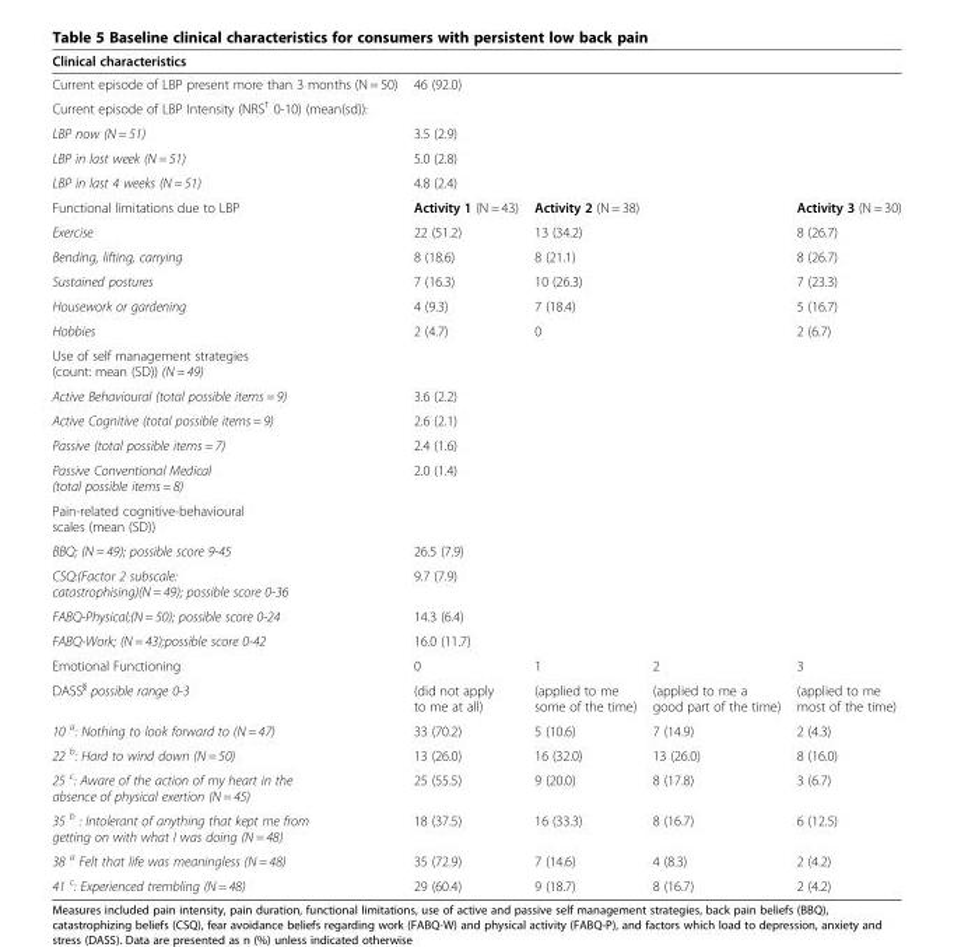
<table><thead><tr><td>Clinical characteristics</td><td></td><td></td><td></td><td></td></tr></thead><tbody><tr><td>Current episode of LBP present more than 3 months (N = 50)</td><td colspan="4">46 (92.0)</td></tr><tr><td colspan="5">Current episode of LBP Intensity (NRS<sup>†</sup> 0-10) (mean(sd)):</td></tr><tr><td>LBP now (N = 51)</td><td colspan="4">3.5 (2.9)</td></tr><tr><td>LBP in last week (N = 51)</td><td colspan="4">5.0 (2.8)</td></tr><tr><td>LBP in last 4 weeks (N = 51)</td><td colspan="4">4.8 (2.4)</td></tr><tr><td>Functional limitations due to LBP</td><td>Activity 1 (N = 43)</td><td colspan="2">Activity 2 (N = 38)</td><td>Activity 3 (N = 30)</td></tr><tr><td>Exercise</td><td>22 (51.2)</td><td colspan="2">13 (34.2)</td><td>8 (26.7)</td></tr><tr><td>Bending, lifting, carrying</td><td>8 (18.6)</td><td colspan="2">8 (21.1)</td><td>8 (26.7)</td></tr><tr><td>Sustained postures</td><td>7 (16.3)</td><td colspan="2">10 (26.3)</td><td>7 (23.3)</td></tr><tr><td>Housework or gardening</td><td>4 (9.3)</td><td colspan="2">7 (18.4)</td><td>5 (16.7)</td></tr><tr><td>Hobbies</td><td>2 (4.7)</td><td colspan="2">0</td><td>2 (6.7)</td></tr><tr><td colspan="5">Use of self management strategies (count: mean (SD)) (N = 49)</td></tr><tr><td>Active Behavioural (total possible items = 9)</td><td colspan="4">3.6 (2.2)</td></tr><tr><td>Active Cognitive (total possible items = 9)</td><td colspan="4">2.6 (2.1)</td></tr><tr><td>Passive (total possible items = 7)</td><td colspan="4">2.4 (1.6)</td></tr><tr><td>Passive Conventional Medical (total possible items = 8)</td><td colspan="4">2.0 (1.4)</td></tr><tr><td colspan="5">Pain-related cognitive-behavioural scales (mean (SD))</td></tr><tr><td>BBQ; (N = 49); possible score 9-45</td><td colspan="4">26.5 (7.9)</td></tr><tr><td>CSQ:(Factor 2 subscale: catastrophising)(N = 49); possible score 0-36</td><td colspan="4">9.7 (7.9)</td></tr><tr><td>FABQ-Physical;(N = 50); possible score 0-24</td><td colspan="4">14.3 (6.4)</td></tr><tr><td>FABQ-Work; (N = 43);possible score 0-42</td><td colspan="4">16.0 (11.7)</td></tr><tr><td>Emotional Functioning</td><td>0</td><td>1</td><td>2</td><td>3</td></tr><tr><td>DASS<sup>§</sup> possible range 0-3</td><td>(did not apply to me at all)</td><td>(applied to me some of the time)</td><td>(applied to me a good part of the time)</td><td>(applied to me most of the time)</td></tr><tr><td>10 <sup>a</sup>: Nothing to look forward to (N = 47)</td><td>33 (70.2)</td><td>5 (10.6)</td><td>7 (14.9)</td><td>2 (4.3)</td></tr><tr><td>22 <sup>b</sup>: Hard to wind down (N = 50)</td><td>13 (26.0)</td><td>16 (32.0)</td><td>13 (26.0)</td><td>8 (16.0)</td></tr><tr><td>25 <sup>c</sup>: Aware of the action of my heart in the absence of physical exertion (N = 45)</td><td>25 (55.5)</td><td>9 (20.0)</td><td>8 (17.8)</td><td>3 (6.7)</td></tr><tr><td>35 <sup>b</sup> : Intolerant of anything that kept me from getting on with what I was doing (N = 48)</td><td>18 (37.5)</td><td>16 (33.3)</td><td>8 (16.7)</td><td>6 (12.5)</td></tr><tr><td>38 <sup>a</sup> Felt that life was meaningless (N = 48)</td><td>35 (72.9)</td><td>7 (14.6)</td><td>4 (8.3)</td><td>2 (4.2)</td></tr><tr><td>41 <sup>c</sup>: Experienced trembling (N = 48)</td><td>29 (60.4)</td><td>9 (18.7)</td><td>8 (16.7)</td><td>2 (4.2)</td></tr></tbody></table>